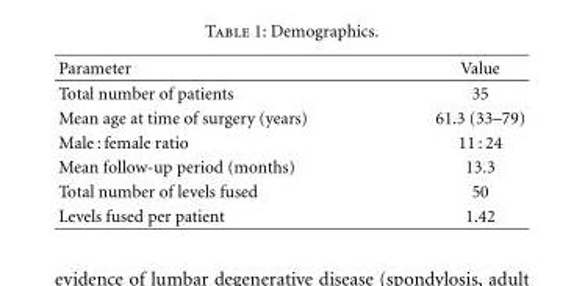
<table><thead><tr><td>Parameter</td><td>Value</td></tr></thead><tbody><tr><td>Total number of patients</td><td>35</td></tr><tr><td>Mean age at time of surgery (years)</td><td>61.3 (33–79)</td></tr><tr><td>Male : female ratio</td><td>11 : 24</td></tr><tr><td>Mean follow-up period (months)</td><td>13.3</td></tr><tr><td>Total number of levels fused</td><td>50</td></tr><tr><td>Levels fused per patient</td><td>1.42</td></tr></tbody></table>